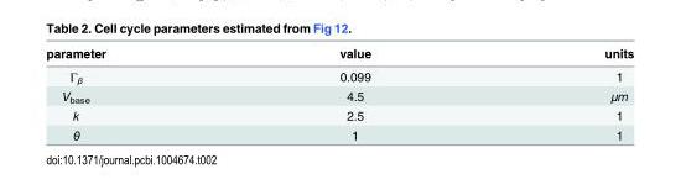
<table><thead><tr><td>parameter</td><td>value</td><td>units</td></tr></thead><tbody><tr><td>Γ<sub>β</sub></td><td>0.099</td><td>1</td></tr><tr><td>V<sub>base</sub></td><td>4.5</td><td>μm</td></tr><tr><td>k</td><td>2.5</td><td>1</td></tr><tr><td>θ</td><td>1</td><td>1</td></tr></tbody></table>